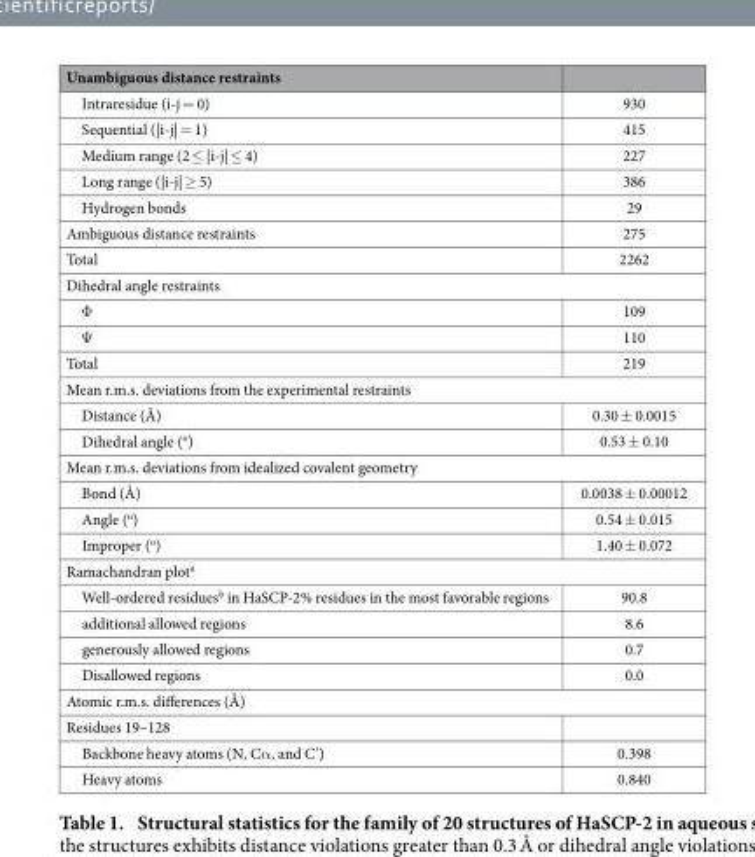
<table><thead><tr><td>Unambiguous distance restraints</td><td></td></tr></thead><tbody><tr><td>Intraresidue (i-j = 0)</td><td>930</td></tr><tr><td>Sequential (|i-j| = 1)</td><td>415</td></tr><tr><td>Medium range (2 ≤ |i-j| ≤ 4)</td><td>227</td></tr><tr><td>Long range (|i-j| ≥ 5)</td><td>386</td></tr><tr><td>Hydrogen bonds</td><td>29</td></tr><tr><td>Ambiguous distance restraints</td><td>275</td></tr><tr><td>Total</td><td>2262</td></tr><tr><td colspan="2">Dihedral angle restraints</td></tr><tr><td>Φ</td><td>109</td></tr><tr><td>Ψ</td><td>110</td></tr><tr><td>Total</td><td>219</td></tr><tr><td colspan="2">Mean r.m.s. deviations from the experimental restraints</td></tr><tr><td>Distance (Å)</td><td>0.30 ± 0.0015</td></tr><tr><td>Dihedral angle (<sup>o</sup>)</td><td>0.53 ± 0.10</td></tr><tr><td colspan="2">Mean r.m.s. deviations from idealized covalent geometry</td></tr><tr><td>Bond (Å)</td><td>0.0038 ± 0.00012</td></tr><tr><td>Angle (<sup>o</sup>)</td><td>0.54 ± 0.015</td></tr><tr><td>Improper (<sup>o</sup>)</td><td>1.40 ± 0.072</td></tr><tr><td colspan="2">Ramachandran plot<sup>a</sup></td></tr><tr><td>Well-ordered residues<sup>b</sup> in HaSCP-2% residues in the most favorable regions</td><td>90.8</td></tr><tr><td>additional allowed regions</td><td>8.6</td></tr><tr><td>generously allowed regions</td><td>0.7</td></tr><tr><td>Disallowed regions</td><td>0.0</td></tr><tr><td colspan="2">Atomic r.m.s. differences (Å)</td></tr><tr><td colspan="2">Residues 19–128</td></tr><tr><td>Backbone heavy atoms (N, Cα , and C’)</td><td>0.398</td></tr><tr><td>Heavy atoms</td><td>0.840</td></tr></tbody></table>